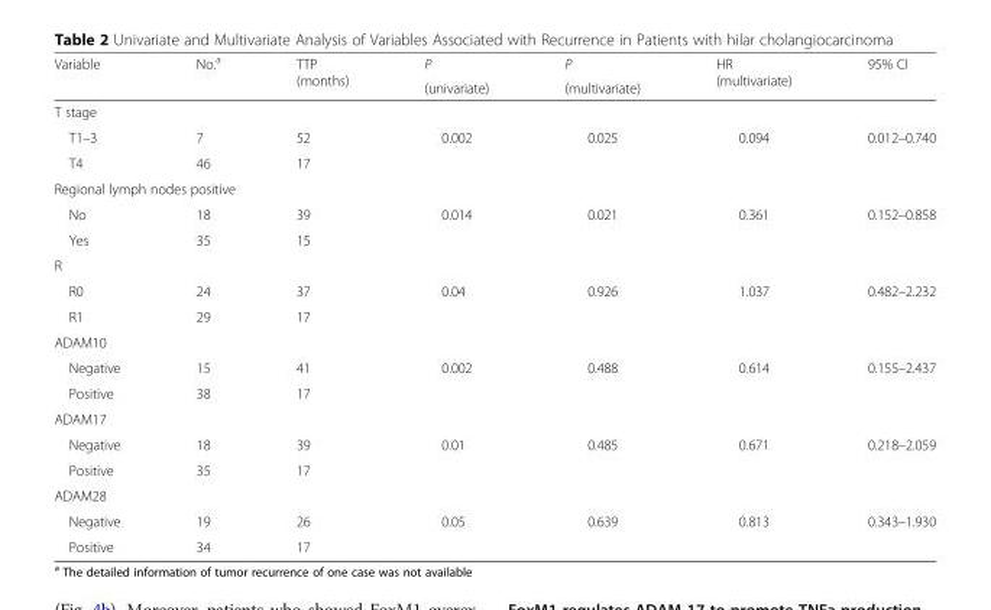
<table><thead><tr><td rowspan="2">Variable</td><td rowspan="2">No.<sup>a</sup></td><td rowspan="2">TTP (months)</td><td rowspan="2">P (univariate)</td><td rowspan="2">P (multivariate)</td><td rowspan="2">HR (multivariate)</td><td rowspan="2">95% CI</td></tr><tr></tr></thead><tbody><tr><td colspan="7">T stage</td></tr><tr><td>T1–3</td><td>7</td><td>52</td><td>0.002</td><td>0.025</td><td>0.094</td><td>0.012–0.740</td></tr><tr><td>T4</td><td>46</td><td>17</td><td></td><td></td><td></td><td></td></tr><tr><td colspan="7">Regional lymph nodes positive</td></tr><tr><td>No</td><td>18</td><td>39</td><td>0.014</td><td>0.021</td><td>0.361</td><td>0.152–0.858</td></tr><tr><td>Yes</td><td>35</td><td>15</td><td></td><td></td><td></td><td></td></tr><tr><td colspan="7">R</td></tr><tr><td>R0</td><td>24</td><td>37</td><td>0.04</td><td>0.926</td><td>1.037</td><td>0.482–2.232</td></tr><tr><td>R1</td><td>29</td><td>17</td><td></td><td></td><td></td><td></td></tr><tr><td colspan="7">ADAM10</td></tr><tr><td>Negative</td><td>15</td><td>41</td><td>0.002</td><td>0.488</td><td>0.614</td><td>0.155–2.437</td></tr><tr><td>Positive</td><td>38</td><td>17</td><td></td><td></td><td></td><td></td></tr><tr><td colspan="7">ADAM17</td></tr><tr><td>Negative</td><td>18</td><td>39</td><td>0.01</td><td>0.485</td><td>0.671</td><td>0.218–2.059</td></tr><tr><td>Positive</td><td>35</td><td>17</td><td></td><td></td><td></td><td></td></tr><tr><td colspan="7">ADAM28</td></tr><tr><td>Negative</td><td>19</td><td>26</td><td>0.05</td><td>0.639</td><td>0.813</td><td>0.343–1.930</td></tr><tr><td>Positive</td><td>34</td><td>17</td><td></td><td></td><td></td><td></td></tr></tbody></table>